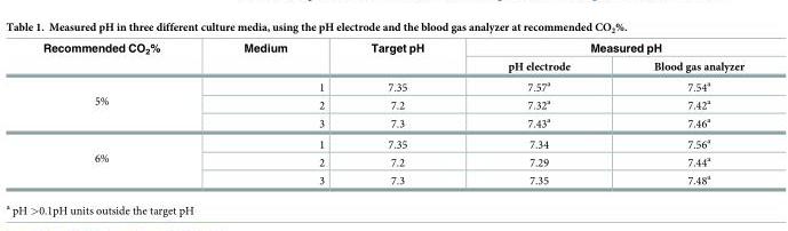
<table><thead><tr><td rowspan="2">Recommended CO<sub>2</sub>%</td><td rowspan="2">Medium</td><td rowspan="2">Target pH</td><td colspan="2">Measured pH</td></tr><tr><td>pH electrode</td><td>Blood gas analyzer</td></tr></thead><tbody><tr><td rowspan="3">5%</td><td>1</td><td>7.35</td><td>7.57<sup>a</sup></td><td>7.54<sup>a</sup></td></tr><tr><td>2</td><td>7.2</td><td>7.32<sup>a</sup></td><td>7.42<sup>a</sup></td></tr><tr><td>3</td><td>7.3</td><td>7.43<sup>a</sup></td><td>7.46<sup>a</sup></td></tr><tr><td rowspan="3">6%</td><td>1</td><td>7.35</td><td>7.34</td><td>7.56<sup>a</sup></td></tr><tr><td>2</td><td>7.2</td><td>7.29</td><td>7.44<sup>a</sup></td></tr><tr><td>3</td><td>7.3</td><td>7.35</td><td>7.48<sup>a</sup></td></tr></tbody></table>